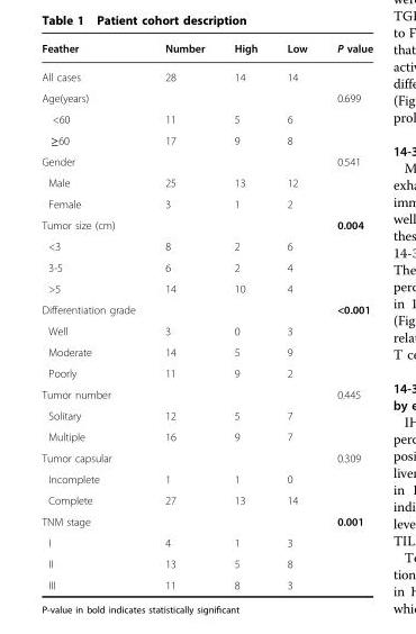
<table><thead><tr><td>Feather</td><td>Number</td><td>High</td><td>Low</td><td>P value</td></tr></thead><tbody><tr><td>All cases</td><td>28</td><td>14</td><td>14</td><td></td></tr><tr><td>Age(years)</td><td></td><td></td><td></td><td>0.699</td></tr><tr><td>&lt;60</td><td>11</td><td>5</td><td>6</td><td></td></tr><tr><td>≥60</td><td>17</td><td>9</td><td>8</td><td></td></tr><tr><td>Gender</td><td></td><td></td><td></td><td>0.541</td></tr><tr><td>Male</td><td>25</td><td>13</td><td>12</td><td></td></tr><tr><td>Female</td><td>3</td><td>1</td><td>2</td><td></td></tr><tr><td>Tumor size (cm)</td><td></td><td></td><td></td><td>0.004</td></tr><tr><td>&lt;3</td><td>8</td><td>2</td><td>6</td><td></td></tr><tr><td>3-5</td><td>6</td><td>2</td><td>4</td><td></td></tr><tr><td>&gt;5</td><td>14</td><td>10</td><td>4</td><td></td></tr><tr><td>Differentiation grade</td><td></td><td></td><td></td><td>&lt;0.001</td></tr><tr><td>Well</td><td>3</td><td>0</td><td>3</td><td></td></tr><tr><td>Moderate</td><td>14</td><td>5</td><td>9</td><td></td></tr><tr><td>Poorly</td><td>11</td><td>9</td><td>2</td><td></td></tr><tr><td>Tumor number</td><td></td><td></td><td></td><td>0.445</td></tr><tr><td>Solitary</td><td>12</td><td>5</td><td>7</td><td></td></tr><tr><td>Multiple</td><td>16</td><td>9</td><td>7</td><td></td></tr><tr><td>Tumor capsular</td><td></td><td></td><td></td><td>0.309</td></tr><tr><td>Incomplete</td><td>1</td><td>1</td><td>0</td><td></td></tr><tr><td>Complete</td><td>27</td><td>13</td><td>14</td><td></td></tr><tr><td>TNM stage</td><td></td><td></td><td></td><td>0.001</td></tr><tr><td>I</td><td>4</td><td>1</td><td>3</td><td></td></tr><tr><td>II</td><td>13</td><td>5</td><td>8</td><td></td></tr><tr><td>III</td><td>11</td><td>8</td><td>3</td><td></td></tr></tbody></table>